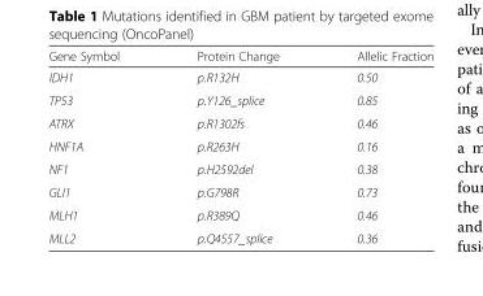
<table><thead><tr><td>Gene Symbol</td><td>Protein Change</td><td>Allelic Fraction</td></tr></thead><tbody><tr><td>IDH1</td><td>p.R132H</td><td>0.50</td></tr><tr><td>TP53</td><td>p.Y126_splice</td><td>0.85</td></tr><tr><td>ATRX</td><td>p.R1302fs</td><td>0.46</td></tr><tr><td>HNF1A</td><td>p.R263H</td><td>0.16</td></tr><tr><td>NF1</td><td>p.H2592del</td><td>0.38</td></tr><tr><td>GLI1</td><td>p.G798R</td><td>0.73</td></tr><tr><td>MLH1</td><td>p.R389Q</td><td>0.46</td></tr><tr><td>MLL2</td><td>p.Q4557_splice</td><td>0.36</td></tr></tbody></table>